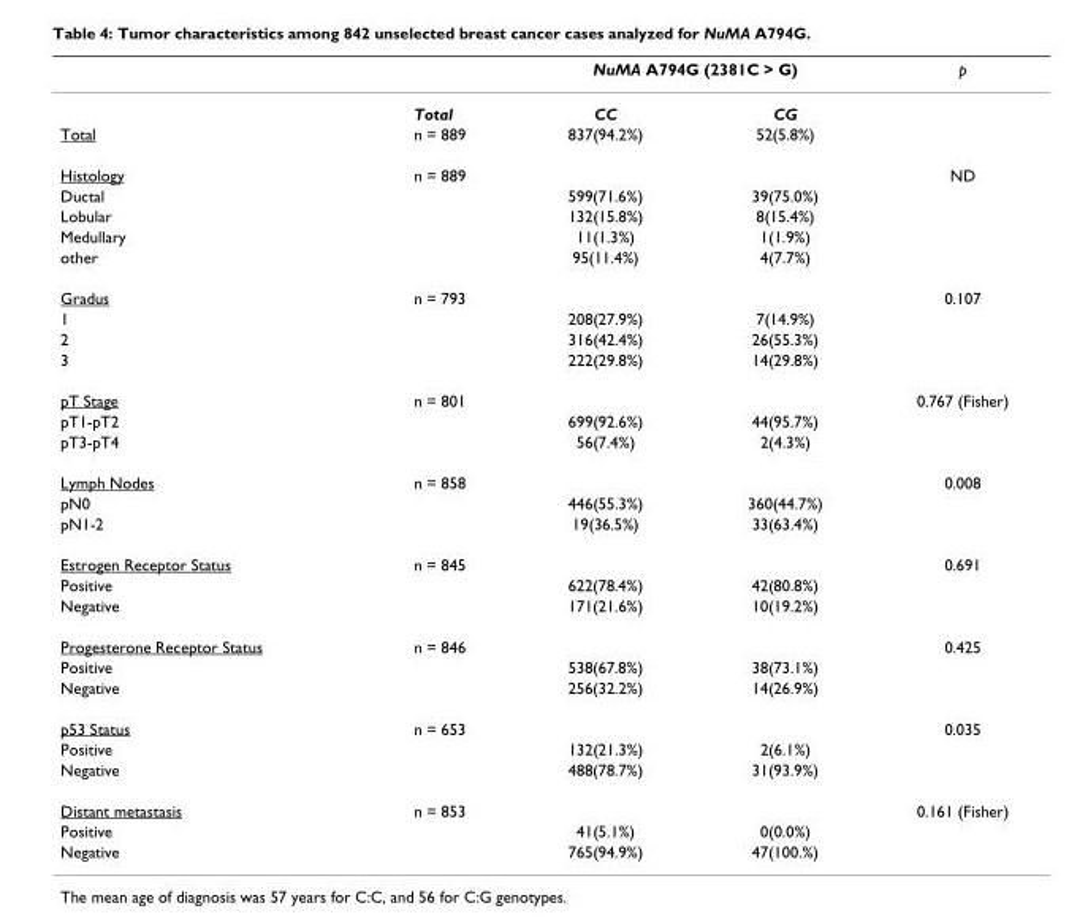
<table><thead><tr><td rowspan="2"></td><td rowspan="2">Total</td><td colspan="2">NuMA A794G (2381C &gt; G)</td><td rowspan="2">p</td></tr><tr><td>CC</td><td>CG</td></tr></thead><tbody><tr><td>Total</td><td>n = 889</td><td>837(94.2%)</td><td>52(5.8%)</td><td></td></tr><tr><td>Histology</td><td>n = 889</td><td></td><td></td><td>ND</td></tr><tr><td>Ductal</td><td></td><td>599(71.6%)</td><td>39(75.0%)</td><td></td></tr><tr><td>Lobular</td><td></td><td>132(15.8%)</td><td>8(15.4%)</td><td></td></tr><tr><td>Medullary</td><td></td><td>11(1.3%)</td><td>1(1.9%)</td><td></td></tr><tr><td>other</td><td></td><td>95(11.4%)</td><td>4(7.7%)</td><td></td></tr><tr><td>Gradus</td><td>n = 793</td><td></td><td></td><td>0.107</td></tr><tr><td>1</td><td></td><td>208(27.9%)</td><td>7(14.9%)</td><td></td></tr><tr><td>2</td><td></td><td>316(42.4%)</td><td>26(55.3%)</td><td></td></tr><tr><td>3</td><td></td><td>222(29.8%)</td><td>14(29.8%)</td><td></td></tr><tr><td>pT Stage</td><td>n = 801</td><td></td><td></td><td>0.767 (Fisher)</td></tr><tr><td>pT1-pT2</td><td></td><td>699(92.6%)</td><td>44(95.7%)</td><td></td></tr><tr><td>pT3-pT4</td><td></td><td>56(7.4%)</td><td>2(4.3%)</td><td></td></tr><tr><td>Lymph Nodes</td><td>n = 858</td><td></td><td></td><td>0.008</td></tr><tr><td>pN0</td><td></td><td>446(55.3%)</td><td>360(44.7%)</td><td></td></tr><tr><td>pN1-2</td><td></td><td>19(36.5%)</td><td>33(63.4%)</td><td></td></tr><tr><td>Estrogen Receptor Status</td><td>n = 845</td><td></td><td></td><td>0.691</td></tr><tr><td>Positive</td><td></td><td>622(78.4%)</td><td>42(80.8%)</td><td></td></tr><tr><td>Negative</td><td></td><td>171(21.6%)</td><td>10(19.2%)</td><td></td></tr><tr><td>Progesterone Receptor Status</td><td>n = 846</td><td></td><td></td><td>0.425</td></tr><tr><td>Positive</td><td></td><td>538(67.8%)</td><td>38(73.1%)</td><td></td></tr><tr><td>Negative</td><td></td><td>256(32.2%)</td><td>14(26.9%)</td><td></td></tr><tr><td>p53 Status</td><td>n = 653</td><td></td><td></td><td>0.035</td></tr><tr><td>Positive</td><td></td><td>132(21.3%)</td><td>2(6.1%)</td><td></td></tr><tr><td>Negative</td><td></td><td>488(78.7%)</td><td>31(93.9%)</td><td></td></tr><tr><td>Distant metastasis</td><td>n = 853</td><td></td><td></td><td>0.161 (Fisher)</td></tr><tr><td>Positive</td><td></td><td>41(5.1%)</td><td>0(0.0%)</td><td></td></tr><tr><td>Negative</td><td></td><td>765(94.9%)</td><td>47(100.%)</td><td></td></tr></tbody></table>